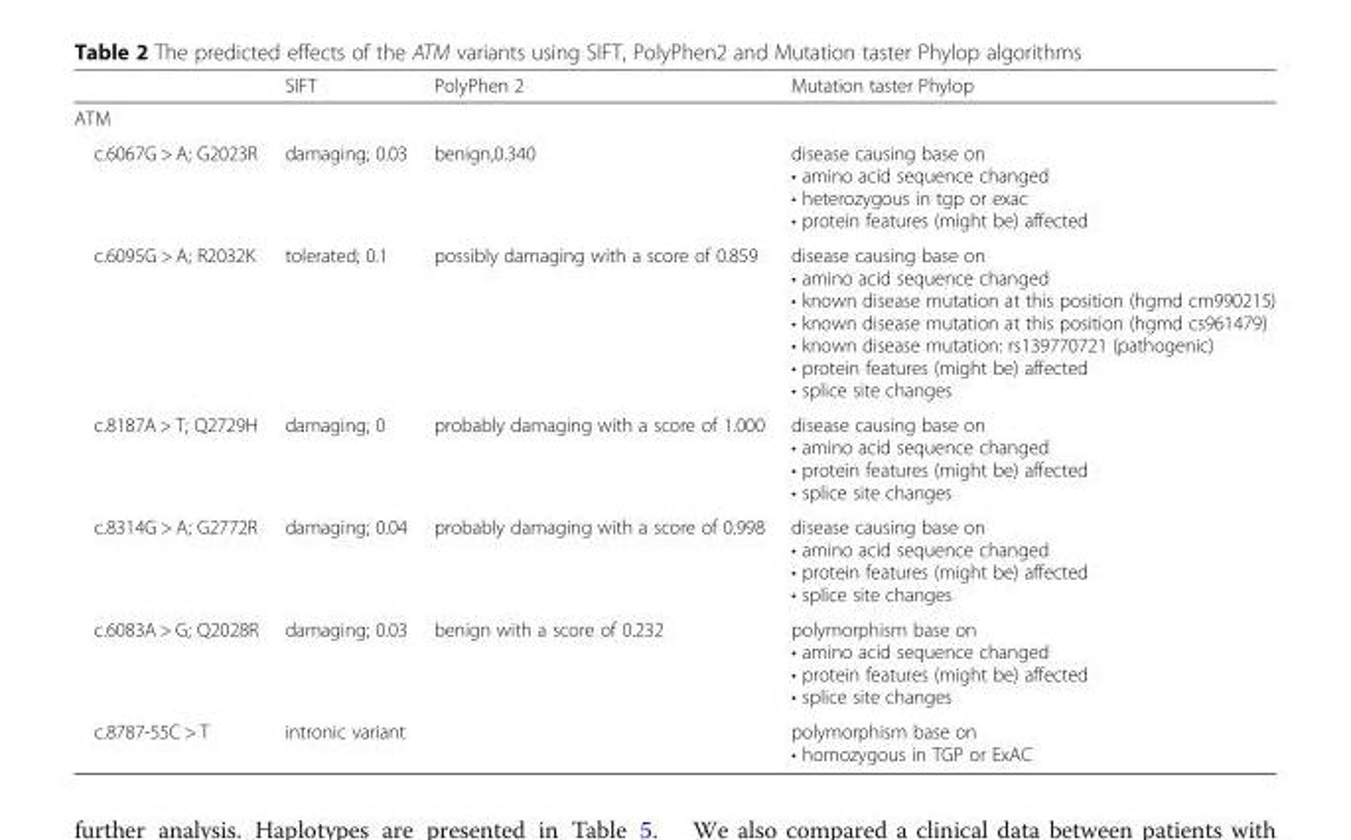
<table><thead><tr><td></td><td>SIFT</td><td>PolyPhen 2</td><td>Mutation taster Phylop</td></tr></thead><tbody><tr><td colspan="4">ATM</td></tr><tr><td>c.6067G &gt; A; G2023R</td><td>damaging; 0.03</td><td>benign,0.340</td><td>disease causing base on • amino acid sequence changed • heterozygous in tgp or exac • protein features (might be) affected</td></tr><tr><td>c.6095G &gt; A; R2032K</td><td>tolerated; 0.1</td><td>possibly damaging with a score of 0.859</td><td>disease causing base on • amino acid sequence changed • known disease mutation at this position (hgmd cm990215) • known disease mutation at this position (hgmd cs961479) • known disease mutation: rs139770721 (pathogenic) • protein features (might be) affected • splice site changes</td></tr><tr><td>c.8187A &gt; T; Q2729H</td><td>damaging; 0</td><td>probably damaging with a score of 1.000</td><td>disease causing base on • amino acid sequence changed • protein features (might be) affected • splice site changes</td></tr><tr><td>c.8314G &gt; A; G2772R</td><td>damaging; 0.04</td><td>probably damaging with a score of 0.998</td><td>disease causing base on • amino acid sequence changed • protein features (might be) affected • splice site changes</td></tr><tr><td>c.6083A &gt; G; Q2028R</td><td>damaging; 0.03</td><td>benign with a score of 0.232</td><td>polymorphism base on • amino acid sequence changed • protein features (might be) affected • splice site changes</td></tr><tr><td>c.8787-55C &gt; T</td><td colspan="2">intronic variant</td><td>polymorphism base on • homozygous in TGP or ExAC</td></tr></tbody></table>